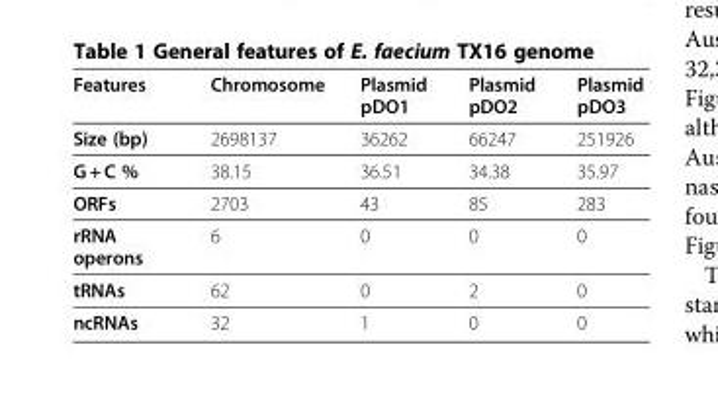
<table><thead><tr><td>Features</td><td>Chromosome</td><td>Plasmid pDO1</td><td>Plasmid pDO2</td><td>Plasmid pDO3</td></tr></thead><tbody><tr><td>Size (bp)</td><td>2698137</td><td>36262</td><td>66247</td><td>251926</td></tr><tr><td>G + C %</td><td>38.15</td><td>36.51</td><td>34.38</td><td>35.97</td></tr><tr><td>ORFs</td><td>2703</td><td>43</td><td>85</td><td>283</td></tr><tr><td>rRNA operons</td><td>6</td><td>0</td><td>0</td><td>0</td></tr><tr><td>tRNAs</td><td>62</td><td>0</td><td>2</td><td>0</td></tr><tr><td>ncRNAs</td><td>32</td><td>1</td><td>0</td><td>0</td></tr></tbody></table>